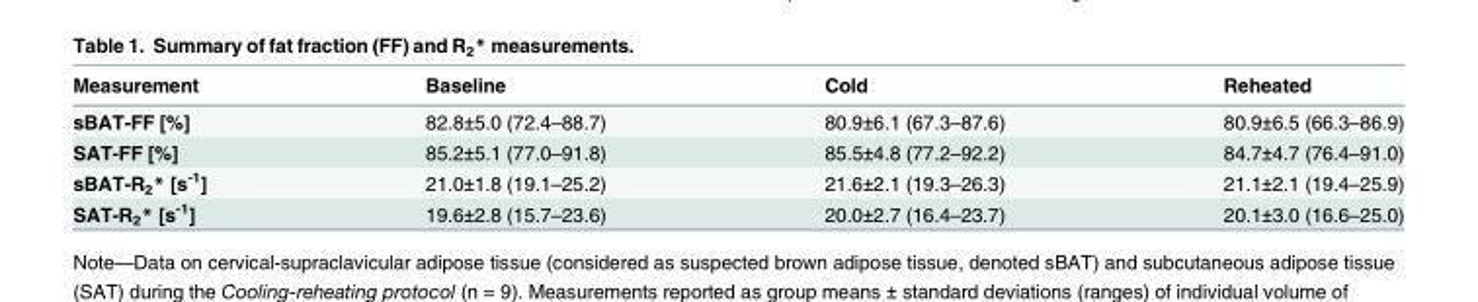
<table><thead><tr><td>Measurement</td><td>Baseline</td><td>Cold</td><td>Reheated</td></tr></thead><tbody><tr><td>sBAT-FF [%]</td><td>82.8±5.0 (72.4–88.7)</td><td>80.9±6.1 (67.3–87.6)</td><td>80.9±6.5 (66.3–86.9)</td></tr><tr><td>SAT-FF [%]</td><td>85.2±5.1 (77.0–91.8)</td><td>85.5±4.8 (77.2–92.2)</td><td>84.7±4.7 (76.4–91.0)</td></tr><tr><td>sBAT-R<sub>2</sub>* [s<sup>-1</sup>]</td><td>21.0±1.8 (19.1–25.2)</td><td>21.6±2.1 (19.3–26.3)</td><td>21.1±2.1 (19.4–25.9)</td></tr><tr><td>SAT-R<sub>2</sub>* [s<sup>-1</sup>]</td><td>19.6±2.8 (15.7–23.6)</td><td>20.0±2.7 (16.4–23.7)</td><td>20.1±3.0 (16.6–25.0)</td></tr></tbody></table>